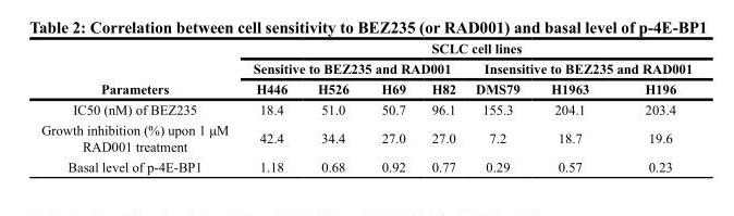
<table><thead><tr><td rowspan="3">Parameters</td><td colspan="7">SCLC cell lines</td></tr><tr><td colspan="4">Sensitive to BEZ235 and RAD001</td><td colspan="3">Insensitive to BEZ235 and RAD001</td></tr><tr><td>H446</td><td>H526</td><td>H69</td><td>H82</td><td>DMS79</td><td>H1963</td><td>H196</td></tr></thead><tbody><tr><td>IC50 (nM) of BEZ235</td><td>18.4</td><td>51.0</td><td>50.7</td><td>96.1</td><td>155.3</td><td>204.1</td><td>203.4</td></tr><tr><td>Growth inhibition (%) upon 1 μM RAD001 treatment</td><td>42.4</td><td>34.4</td><td>27.0</td><td>27.0</td><td>7.2</td><td>18.7</td><td>19.6</td></tr><tr><td>Basal level of p-4E-BP1</td><td>1.18</td><td>0.68</td><td>0.92</td><td>0.77</td><td>0.29</td><td>0.57</td><td>0.23</td></tr></tbody></table>